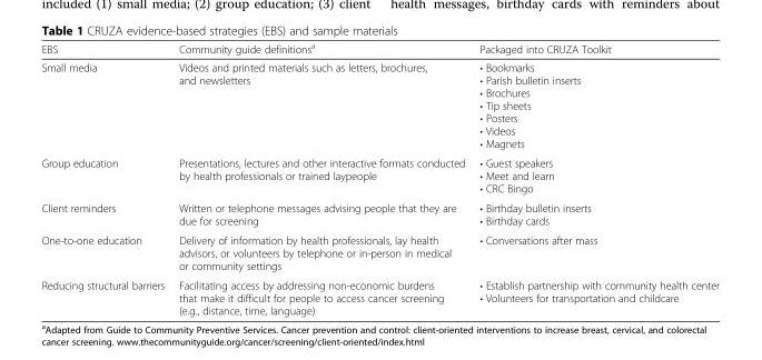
<table><thead><tr><td>EBS</td><td>Community guide definitions<sup>a</sup></td><td>Packaged into CRUZA Toolkit</td></tr></thead><tbody><tr><td>Small media</td><td>Videos and printed materials such as letters, brochures, and newsletters</td><td>• Bookmarks • Parish bulletin inserts • Brochures • Tip sheets • Posters • Videos • Magnets</td></tr><tr><td>Group education</td><td>Presentations, lectures and other interactive formats conducted by health professionals or trained laypeople</td><td>• Guest speakers • Meet and learn • CRC Bingo</td></tr><tr><td>Client reminders</td><td>Written or telephone messages advising people that they are due for screening</td><td>• Birthday bulletin inserts • Birthday cards</td></tr><tr><td>One-to-one education</td><td>Delivery of information by health professionals, lay health advisors, or volunteers by telephone or in-person in medical or community settings</td><td>• Conversations after mass</td></tr><tr><td>Reducing structural barriers</td><td>Facilitating access by addressing non-economic burdens that make it difficult for people to access cancer screening (e.g., distance, time, language)</td><td>• Establish partnership with community health center • Volunteers for transportation and childcare</td></tr></tbody></table>